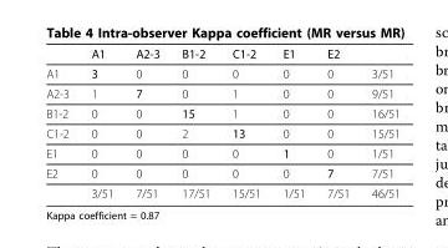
<table><thead><tr><td></td><td>A1</td><td>A2-3</td><td>B1-2</td><td>C1-2</td><td>E1</td><td>E2</td><td></td></tr></thead><tbody><tr><td>A1</td><td>3</td><td>0</td><td>0</td><td>0</td><td>0</td><td>0</td><td>3/51</td></tr><tr><td>A2-3</td><td>1</td><td>7</td><td>0</td><td>1</td><td>0</td><td>0</td><td>9/51</td></tr><tr><td>B1-2</td><td>0</td><td>0</td><td>15</td><td>1</td><td>0</td><td>0</td><td>16/51</td></tr><tr><td>C1-2</td><td>0</td><td>0</td><td>2</td><td>13</td><td>0</td><td>0</td><td>15/51</td></tr><tr><td>E1</td><td>0</td><td>0</td><td>0</td><td>0</td><td>1</td><td>0</td><td>1/51</td></tr><tr><td rowspan="2">E2</td><td>0</td><td>0</td><td>0</td><td>0</td><td>0</td><td>7</td><td>7/51</td></tr><tr><td>3/51</td><td>7/51</td><td>17/51</td><td>15/51</td><td>1/51</td><td>7/51</td><td>46/51</td></tr></tbody></table>